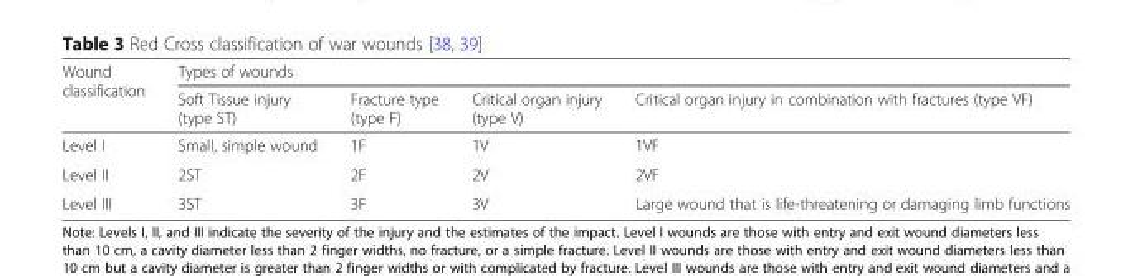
<table><thead><tr><td rowspan="2">Wound classification</td><td colspan="4">Types of wounds</td></tr><tr><td>Soft Tissue injury (type ST)</td><td>Fracture type (type F)</td><td>Critical organ injury (type V)</td><td>Critical organ injury in combination with fractures (type VF)</td></tr></thead><tbody><tr><td>Level I</td><td>Small, simple wound</td><td>1F</td><td>1V</td><td>1VF</td></tr><tr><td>Level II</td><td>2ST</td><td>2F</td><td>2V</td><td>2VF</td></tr><tr><td>Level III</td><td>3ST</td><td>3F</td><td>3V</td><td>Large wound that is life-threatening or damaging limb functions</td></tr></tbody></table>